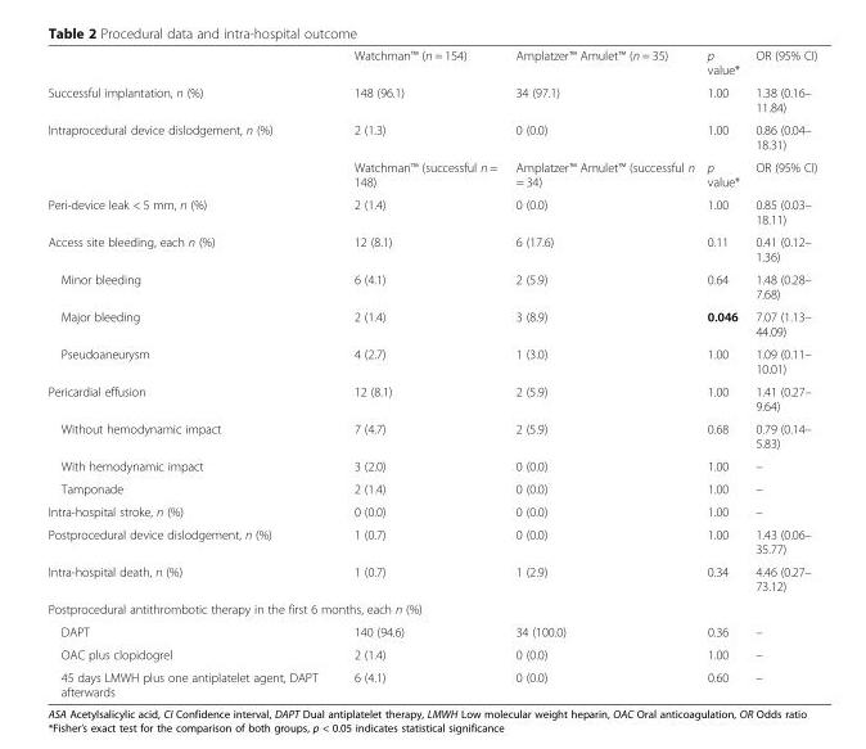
<table><thead><tr><td></td><td>Watchman™ (n = 154)</td><td>Amplatzer™ Amulet™ (n = 35)</td><td>p value*</td><td>OR (95% CI)</td></tr></thead><tbody><tr><td>Successful implantation, n (%)</td><td>148 (96.1)</td><td>34 (97.1)</td><td>1.00</td><td>1.38 (0.16– 11.84)</td></tr><tr><td rowspan="2">Intraprocedural device dislodgement, n (%)</td><td>2 (1.3)</td><td>0 (0.0)</td><td>1.00</td><td>0.86 (0.04– 18.31)</td></tr><tr><td>Watchman™ (successful n = 148)</td><td>Amplatzer™ Amulet™ (successful n = 34)</td><td>p value*</td><td>OR (95% CI)</td></tr><tr><td>Peri-device leak &lt; 5 mm, n (%)</td><td>2 (1.4)</td><td>0 (0.0)</td><td>1.00</td><td>0.85 (0.03– 18.11)</td></tr><tr><td>Access site bleeding, each n (%)</td><td>12 (8.1)</td><td>6 (17.6)</td><td>0.11</td><td>0.41 (0.12– 1.36)</td></tr><tr><td>Minor bleeding</td><td>6 (4.1)</td><td>2 (5.9)</td><td>0.64</td><td>1.48 (0.28– 7.68)</td></tr><tr><td>Major bleeding</td><td>2 (1.4)</td><td>3 (8.9)</td><td>0.046</td><td>7.07 (1.13– 44.09)</td></tr><tr><td>Pseudoaneurysm</td><td>4 (2.7)</td><td>1 (3.0)</td><td>1.00</td><td>1.09 (0.11– 10.01)</td></tr><tr><td>Pericardial effusion</td><td>12 (8.1)</td><td>2 (5.9)</td><td>1.00</td><td>1.41 (0.27– 9.64)</td></tr><tr><td>Without hemodynamic impact</td><td>7 (4.7)</td><td>2 (5.9)</td><td>0.68</td><td>0.79 (0.14– 5.83)</td></tr><tr><td>With hemodynamic impact</td><td>3 (2.0)</td><td>0 (0.0)</td><td>1.00</td><td>–</td></tr><tr><td>Tamponade</td><td>2 (1.4)</td><td>0 (0.0)</td><td>1.00</td><td>–</td></tr><tr><td>Intra-hospital stroke, n (%)</td><td>0 (0.0)</td><td>0 (0.0)</td><td>1.00</td><td>–</td></tr><tr><td>Postprocedural device dislodgement, n (%)</td><td>1 (0.7)</td><td>0 (0.0)</td><td>1.00</td><td>1.43 (0.06– 35.77)</td></tr><tr><td>Intra-hospital death, n (%)</td><td>1 (0.7)</td><td>1 (2.9)</td><td>0.34</td><td>4.46 (0.27– 73.12)</td></tr><tr><td colspan="5">Postprocedural antithrombotic therapy in the first 6 months, each n (%)</td></tr><tr><td>DAPT</td><td>140 (94.6)</td><td>34 (100.0)</td><td>0.36</td><td>–</td></tr><tr><td>OAC plus clopidogrel</td><td>2 (1.4)</td><td>0 (0.0)</td><td>1.00</td><td>–</td></tr><tr><td>45 days LMWH plus one antiplatelet agent, DAPT afterwards</td><td>6 (4.1)</td><td>0 (0.0)</td><td>0.60</td><td>–</td></tr></tbody></table>